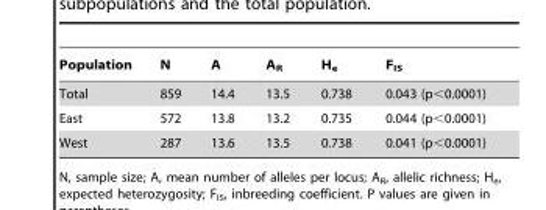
<table><thead><tr><td>Population</td><td>N</td><td>A</td><td>A<sub>R</sub></td><td>H<sub>e</sub></td><td>F<sub>IS</sub></td></tr></thead><tbody><tr><td>Total</td><td>859</td><td>14.4</td><td>13.5</td><td>0.738</td><td>0.043 (p&lt;0.0001)</td></tr><tr><td>East</td><td>572</td><td>13.8</td><td>13.2</td><td>0.735</td><td>0.044 (p&lt;0.0001)</td></tr><tr><td>West</td><td>287</td><td>13.6</td><td>13.5</td><td>0.738</td><td>0.041 (p&lt;0.0001)</td></tr></tbody></table>